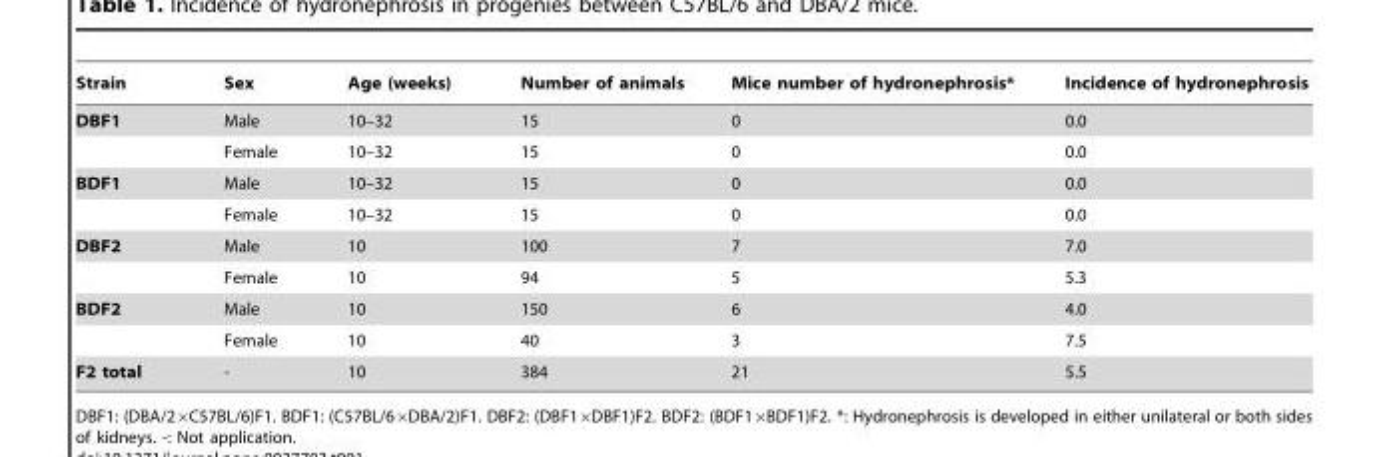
<table><thead><tr><td>Strain</td><td>Sex</td><td>Age (weeks)</td><td>Number of animals</td><td>Mice number of hydronephrosis*</td><td>Incidence of hydronephrosis</td></tr></thead><tbody><tr><td rowspan="2">DBF1</td><td>Male</td><td>10–32</td><td>15</td><td>0</td><td>0.0</td></tr><tr><td>Female</td><td>10–32</td><td>15</td><td>0</td><td>0.0</td></tr><tr><td rowspan="2">BDF1</td><td>Male</td><td>10–32</td><td>15</td><td>0</td><td>0.0</td></tr><tr><td>Female</td><td>10–32</td><td>15</td><td>0</td><td>0.0</td></tr><tr><td rowspan="2">DBF2</td><td>Male</td><td>10</td><td>100</td><td>7</td><td>7.0</td></tr><tr><td>Female</td><td>10</td><td>94</td><td>5</td><td>5.3</td></tr><tr><td rowspan="2">BDF2</td><td>Male</td><td>10</td><td>150</td><td>6</td><td>4.0</td></tr><tr><td>Female</td><td>10</td><td>40</td><td>3</td><td>7.5</td></tr><tr><td>F2 total</td><td>-</td><td>10</td><td>384</td><td>21</td><td>5.5</td></tr></tbody></table>